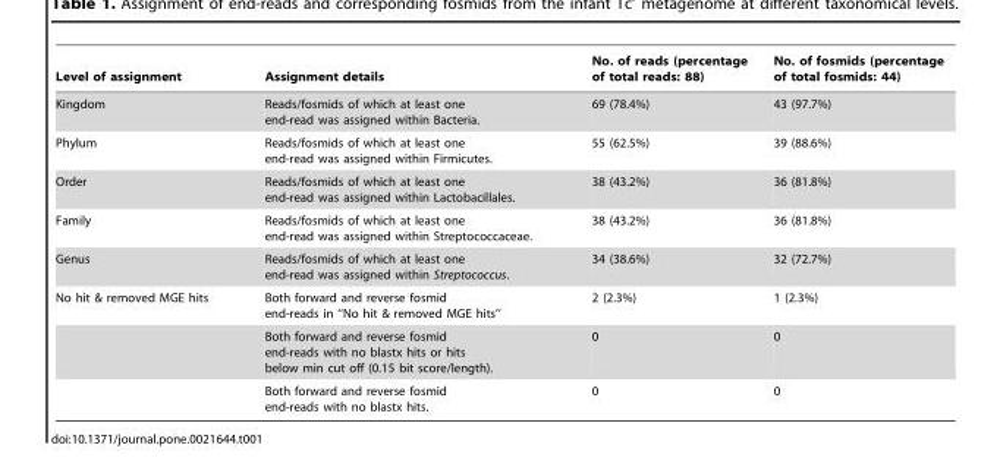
<table><thead><tr><td>Level of assignment</td><td>Assignment details</td><td>No. of reads (percentage of total reads: 88)</td><td>No. of fosmids (percentage of total fosmids: 44)</td></tr></thead><tbody><tr><td>Kingdom</td><td>Reads/fosmids of which at least one end-read was assigned within Bacteria.</td><td>69 (78.4%)</td><td>43 (97.7%)</td></tr><tr><td>Phylum</td><td>Reads/fosmids of which at least one end-read was assigned within Firmicutes.</td><td>55 (62.5%)</td><td>39 (88.6%)</td></tr><tr><td>Order</td><td>Reads/fosmids of which at least one end-read was assigned within Lactobacillales.</td><td>38 (43.2%)</td><td>36 (81.8%)</td></tr><tr><td>Family</td><td>Reads/fosmids of which at least one end-read was assigned within Streptococcaceae.</td><td>38 (43.2%)</td><td>36 (81.8%)</td></tr><tr><td>Genus</td><td>Reads/fosmids of which at least one end-read was assigned within Streptococcus.</td><td>34 (38.6%)</td><td>32 (72.7%)</td></tr><tr><td rowspan="3">No hit &amp; removed MGE hits</td><td>Both forward and reverse fosmid end-reads in ‘‘No hit &amp; removed MGE hits’’</td><td>2 (2.3%)</td><td>1 (2.3%)</td></tr><tr><td>Both forward and reverse fosmid end-reads with no blastx hits or hits below min cut off (0.15 bit score/length).</td><td>0</td><td>0</td></tr><tr><td>Both forward and reverse fosmid end-reads with no blastx hits.</td><td>0</td><td>0</td></tr></tbody></table>